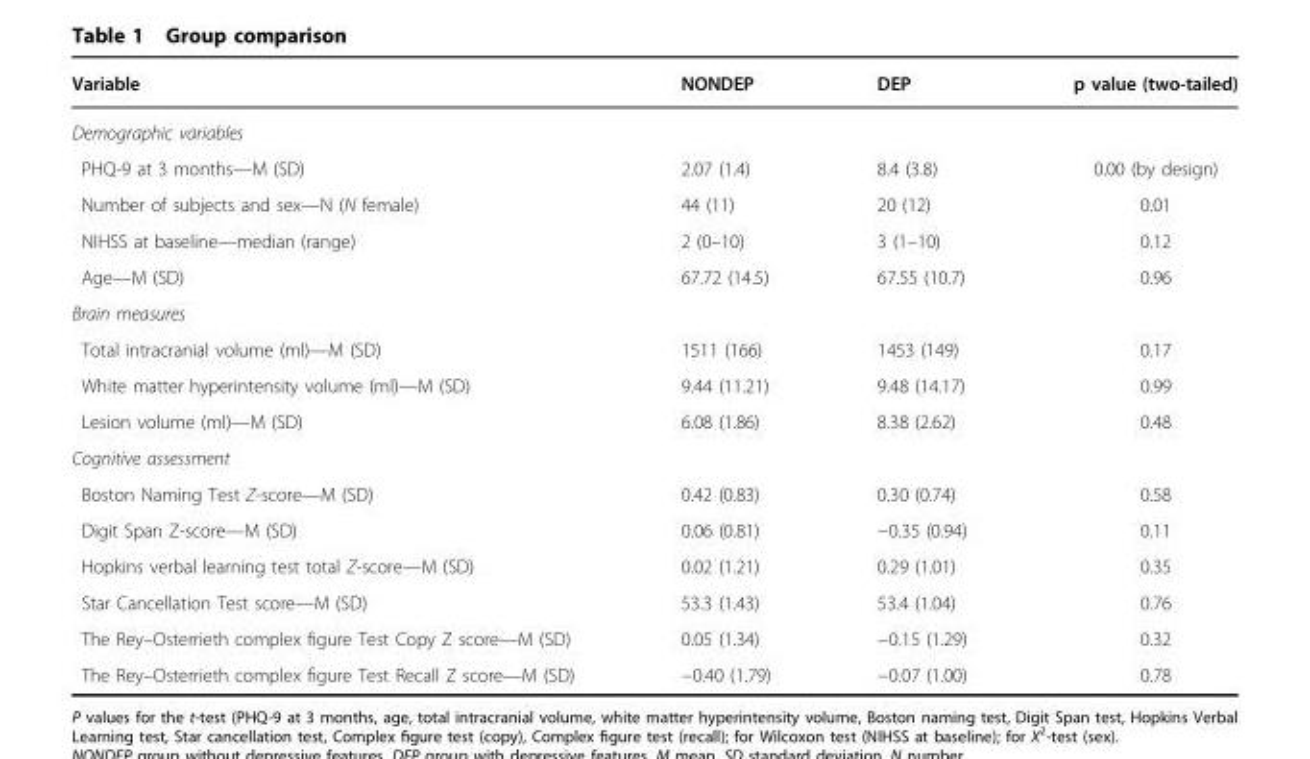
<table><thead><tr><td>Variable</td><td>NONDEP</td><td>DEP</td><td>p value (two-tailed)</td></tr></thead><tbody><tr><td colspan="4">Demographic variables</td></tr><tr><td>PHQ-9 at 3 months—M (SD)</td><td>2.07 (1.4)</td><td>8.4 (3.8)</td><td>0.00 (by design)</td></tr><tr><td>Number of subjects and sex—N (N female)</td><td>44 (11)</td><td>20 (12)</td><td>0.01</td></tr><tr><td>NIHSS at baseline—median (range)</td><td>2 (0–10)</td><td>3 (1–10)</td><td>0.12</td></tr><tr><td>Age—M (SD)</td><td>67.72 (14.5)</td><td>67.55 (10.7)</td><td>0.96</td></tr><tr><td colspan="4">Brain measures</td></tr><tr><td>Total intracranial volume (ml)—M (SD)</td><td>1511 (166)</td><td>1453 (149)</td><td>0.17</td></tr><tr><td>White matter hyperintensity volume (ml)—M (SD)</td><td>9.44 (11.21)</td><td>9.48 (14.17)</td><td>0.99</td></tr><tr><td>Lesion volume (ml)—M (SD)</td><td>6.08 (1.86)</td><td>8.38 (2.62)</td><td>0.48</td></tr><tr><td colspan="4">Cognitive assessment</td></tr><tr><td>Boston Naming Test Z-score—M (SD)</td><td>0.42 (0.83)</td><td>0.30 (0.74)</td><td>0.58</td></tr><tr><td>Digit Span Z-score—M (SD)</td><td>0.06 (0.81)</td><td>−0.35 (0.94)</td><td>0.11</td></tr><tr><td>Hopkins verbal learning test total Z-score—M (SD)</td><td>0.02 (1.21)</td><td>0.29 (1.01)</td><td>0.35</td></tr><tr><td>Star Cancellation Test score—M (SD)</td><td>53.3 (1.43)</td><td>53.4 (1.04)</td><td>0.76</td></tr><tr><td>The Rey–Osterrieth complex figure Test Copy Z score—M (SD)</td><td>0.05 (1.34)</td><td>−0.15 (1.29)</td><td>0.32</td></tr><tr><td>The Rey–Osterrieth complex figure Test Recall Z score—M (SD)</td><td>−0.40 (1.79)</td><td>−0.07 (1.00)</td><td>0.78</td></tr></tbody></table>